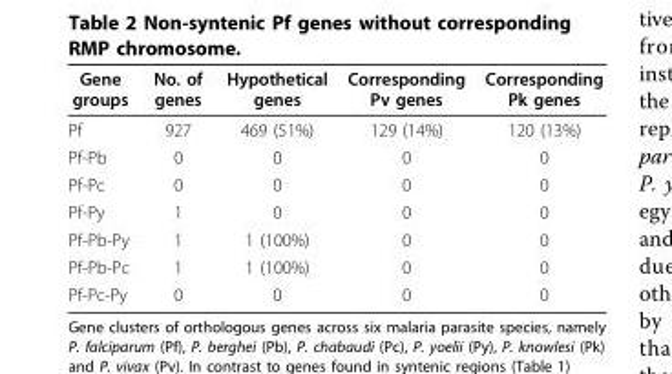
<table><thead><tr><td>Gene groups</td><td>No. of genes</td><td>Hypothetical genes</td><td>Corresponding Pv genes</td><td>Corresponding Pk genes</td></tr></thead><tbody><tr><td>Pf</td><td>927</td><td>469 (51%)</td><td>129 (14%)</td><td>120 (13%)</td></tr><tr><td>Pf-Pb</td><td>0</td><td>0</td><td>0</td><td>0</td></tr><tr><td>Pf-Pc</td><td>0</td><td>0</td><td>0</td><td>0</td></tr><tr><td>Pf-Py</td><td>1</td><td>0</td><td>0</td><td>0</td></tr><tr><td>Pf-Pb-Py</td><td>1</td><td>1 (100%)</td><td>0</td><td>0</td></tr><tr><td>Pf-Pb-Pc</td><td>1</td><td>1 (100%)</td><td>0</td><td>0</td></tr><tr><td>Pf-Pc-Py</td><td>0</td><td>0</td><td>0</td><td>0</td></tr></tbody></table>